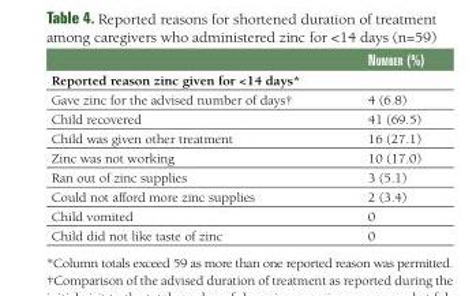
<table><thead><tr><td></td><td>Number (%)</td></tr></thead><tbody><tr><td colspan="2">Reported reason zinc given for &lt;14 days*</td></tr><tr><td>Gave zinc for the advised number of days†</td><td>4 (6.8)</td></tr><tr><td>Child recovered</td><td>41 (69.5)</td></tr><tr><td>Child was given other treatment</td><td>16 (27.1)</td></tr><tr><td>Zinc was not working</td><td>10 (17.0)</td></tr><tr><td>Ran out of zinc supplies</td><td>3 (5.1)</td></tr><tr><td>Could not afford more zinc supplies</td><td>2 (3.4)</td></tr><tr><td>Child vomited</td><td>0</td></tr><tr><td>Child did not like taste of zinc</td><td>0</td></tr></tbody></table>